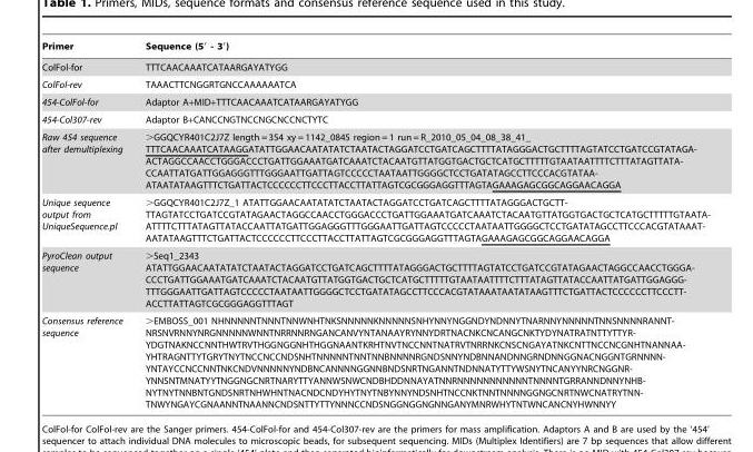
<table><thead><tr><td>Primer</td><td>Sequence (5′ - 3′)</td></tr></thead><tbody><tr><td>ColFol-for</td><td>TTTCAACAAATCATAARGAYATYGG</td></tr><tr><td>ColFol-rev</td><td>TAAACTTCNGGRTGNCCAAAAAATCA</td></tr><tr><td>454-ColFol-for</td><td>Adaptor A+MID+TTTCAACAAATCATAARGAYATYGG</td></tr><tr><td>454-Col307-rev</td><td>Adaptor B+CANCCNGTNCCNGCNCCNCTYTC</td></tr><tr><td>Raw 454 sequence after demultiplexing</td><td>.GGQCYR401C2J7Z length = 354 xy = 1142_0845 region = 1 run = R_2010_05_04_08_38_41_ TTTCAACAAATCATAAGGATATTGGAACAATATATCTAATACTAGGATCCTGATCAGCTTTTATAGGGACTGCTTTTAGTATCCTGATCCGTATAGA- ACTAGGCCAACCTGGGACCCTGATTGGAAATGATCAAATCTACAATGTTATGGTGACTGCTCATGCTTTTTGTAATAATTTTCTTTATAGTTATA- CCAATTATGATTGGAGGGTTTGGGAATTGATTAGTCCCCCTAATAATTGGGGCTCCTGATATAGCCTTCCCACGTATAA- ATAATATAAGTTTCTGATTACTCCCCCCTTCCCTTACCTTATTAGTCGCGGGAGGTTTAGTAGAAAGAGCGGCAGGAACAGGA</td></tr><tr><td>Unique sequence output from UniqueSequence.pl</td><td>.GGQCYR401C2J7Z_1 ATATTGGAACAATATATCTAATACTAGGATCCTGATCAGCTTTTATAGGGACTGCTT- TTAGTATCCTGATCCGTATAGAACTAGGCCAACCTGGGACCCTGATTGGAAATGATCAAATCTACAATGTTATGGTGACTGCTCATGCTTTTTGTAATA- ATTTTCTTTATAGTTATACCAATTATGATTGGAGGGTTTGGGAATTGATTAGTCCCCCTAATAATTGGGGCTCCTGATATAGCCTTCCCACGTATAAAT- AATATAAGTTTCTGATTACTCCCCCCTTCCCTTACCTTATTAGTCGCGGGAGGTTTAGTAGAAAGAGCGGCAGGAACAGGA</td></tr><tr><td>PyroClean output sequence</td><td>.Seq1_2343 ATATTGGAACAATATATCTAATACTAGGATCCTGATCAGCTTTTATAGGGACTGCTTTTAGTATCCTGATCCGTATAGAACTAGGCCAACCTGGGA- CCCTGATTGGAAATGATCAAATCTACAATGTTATGGTGACTGCTCATGCTTTTTGTAATAATTTTCTTTATAGTTATACCAATTATGATTGGAGGG- TTTGGGAATTGATTAGTCCCCCTAATAATTGGGGCTCCTGATATAGCCTTCCCACGTATAAATAATATAAGTTTCTGATTACTCCCCCCTTCCCTT- ACCTTATTAGTCGCGGGAGGTTTAGT</td></tr><tr><td>Consensus reference sequence</td><td>.EMBOSS_001 NHNNNNNTNNNTNNWNHTNKSNNNNNKNNNNNSNHYNNYNGGNDYNDNNYTNARNNYNNNNNTNNSNNNNRANNT- NRSNVRNNYNRGNNNNNWNNTNRRNNRNGANCANVYNTANAAYRYNNYDRTNACNKCNCANGCNKTYDYNATRATNTTYTTYR- YDGTNAKNCCNNTHWTRVTHGGNGGNHTHGGNAANTKRHTNVTNCCNNTNATRVTNRRNKCNSCNGAYATNKCNTTNCCNCGNHTNANNAA- YHTRAGNTTYTGRYTNYTNCCNCCNDSNHTNNNNNTNNTNNBNNNNRGNDSNNYNDBNNANDNNGRNDNNGGNACNGGNTGRNNNN- YNTAYCCNCCNNTNKCNDVNNNNNYNDBNCANNNNGGNNBNDSNRTNGANNTNDNNATYTTYWSNYTNCANYYNRCNGGNR- YNNSNTMNATYYTNGGNGCNRTNARYTTYANNWSNWCNDBHDDNNAYATNNRNNNNNNNNNNNTNNNNTGRRANNDNNYNHB- NYTNYTNNBNTGNDSNRTNHWHNTNACNDCNDYHYTNYTNBYNNYNDSNHTNCCNKTNNTNNNNGGNGCNRTNWCNATRYTNN- TNWYNGAYCGNAANNTNAANNCNDSNTTYTTYNNNCCNDSNGGNGGNGNNGANYMNRWHYTNTWNCANCNYHWNNYY</td></tr></tbody></table>